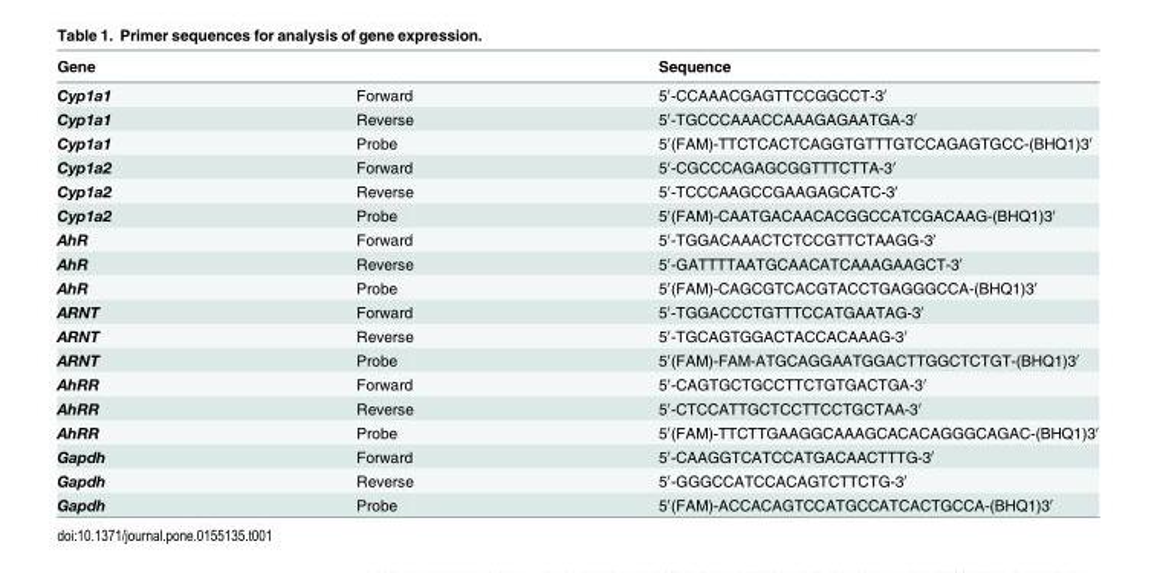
<table><thead><tr><td>Gene</td><td></td><td>Sequence</td></tr></thead><tbody><tr><td>Cyp1a1</td><td>Forward</td><td>5′-CCAAACGAGTTCCGGCCT-3′</td></tr><tr><td>Cyp1a1</td><td>Reverse</td><td>5′-TGCCCAAACCAAAGAGAATGA-3′</td></tr><tr><td>Cyp1a1</td><td>Probe</td><td>5′(FAM)-TTCTCACTCAGGTGTTTGTCCAGAGTGCC-(BHQ1)3′</td></tr><tr><td>Cyp1a2</td><td>Forward</td><td>5′-CGCCCAGAGCGGTTTCTTA-3′</td></tr><tr><td>Cyp1a2</td><td>Reverse</td><td>5′-TCCCAAGCCGAAGAGCATC-3′</td></tr><tr><td>Cyp1a2</td><td>Probe</td><td>5′(FAM)-CAATGACAACACGGCCATCGACAAG-(BHQ1)3′</td></tr><tr><td>AhR</td><td>Forward</td><td>5′-TGGACAAACTCTCCGTTCTAAGG-3′</td></tr><tr><td>AhR</td><td>Reverse</td><td>5′-GATTTTAATGCAACATCAAAGAAGCT-3′</td></tr><tr><td>AhR</td><td>Probe</td><td>5′(FAM)-CAGCGTCACGTACCTGAGGGCCA-(BHQ1)3′</td></tr><tr><td>ARNT</td><td>Forward</td><td>5′-TGGACCCTGTTTCCATGAATAG-3′</td></tr><tr><td>ARNT</td><td>Reverse</td><td>5′-TGCAGTGGACTACCACAAAG-3′</td></tr><tr><td>ARNT</td><td>Probe</td><td>5′(FAM)-FAM-ATGCAGGAATGGACTTGGCTCTGT-(BHQ1)3′</td></tr><tr><td>AhRR</td><td>Forward</td><td>5′-CAGTGCTGCCTTCTGTGACTGA-3′</td></tr><tr><td>AhRR</td><td>Reverse</td><td>5′-CTCCATTGCTCCTTCCTGCTAA-3′</td></tr><tr><td>AhRR</td><td>Probe</td><td>5′(FAM)-TTCTTGAAGGCAAAGCACACAGGGCAGAC-(BHQ1)3′</td></tr><tr><td>Gapdh</td><td>Forward</td><td>5′-CAAGGTCATCCATGACAACTTTG-3′</td></tr><tr><td>Gapdh</td><td>Reverse</td><td>5′-GGGCCATCCACAGTCTTCTG-3′</td></tr><tr><td>Gapdh</td><td>Probe</td><td>5′(FAM)-ACCACAGTCCATGCCATCACTGCCA-(BHQ1)3′</td></tr></tbody></table>